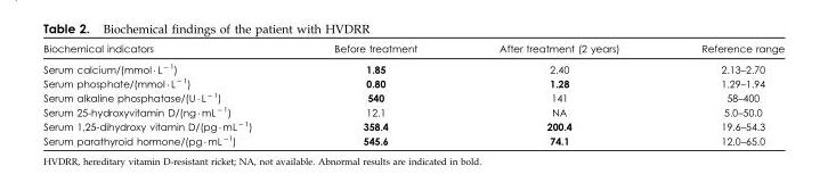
<table><thead><tr><td>Biochemical indicators</td><td>Before treatment</td><td>After treatment (2 years)</td><td>Reference range</td></tr></thead><tbody><tr><td>Serum calcium/(mmol · L <sup>− 1</sup>)</td><td>1.85</td><td>2.40</td><td>2.13–2.70</td></tr><tr><td>Serum phosphate/(mmol · L <sup>− 1</sup>)</td><td>0.80</td><td>1.28</td><td>1.29–1.94</td></tr><tr><td>Serum alkaline phosphatase/(U · L <sup>− 1</sup>)</td><td>540</td><td>141</td><td>58–400</td></tr><tr><td>Serum 25-hydroxyvitamin D/(ng · mL <sup>− 1</sup>)</td><td>12.1</td><td>NA</td><td>5.0–50.0</td></tr><tr><td>Serum 1,25-dihydroxy vitamin D/(pg · mL <sup>− 1</sup>)</td><td>358.4</td><td>200.4</td><td>19.6–54.3</td></tr><tr><td>Serum parathyroid hormone/(pg · mL <sup>−1</sup>)</td><td>545.6</td><td>74.1</td><td>12.0–65.0</td></tr></tbody></table>